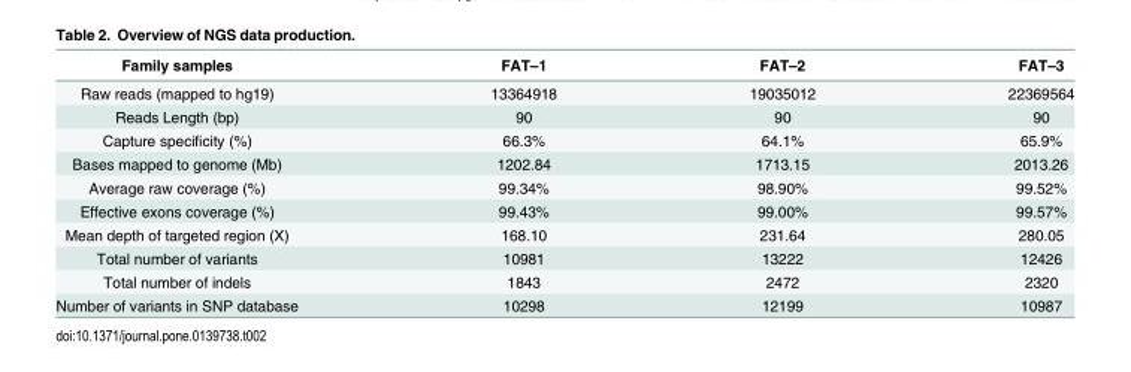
<table><thead><tr><td>Family samples</td><td>FAT–1</td><td>FAT–2</td><td>FAT–3</td></tr></thead><tbody><tr><td>Raw reads (mapped to hg19)</td><td>13364918</td><td>19035012</td><td>22369564</td></tr><tr><td>Reads Length (bp)</td><td>90</td><td>90</td><td>90</td></tr><tr><td>Capture specificity (%)</td><td>66.3%</td><td>64.1%</td><td>65.9%</td></tr><tr><td>Bases mapped to genome (Mb)</td><td>1202.84</td><td>1713.15</td><td>2013.26</td></tr><tr><td>Average raw coverage (%)</td><td>99.34%</td><td>98.90%</td><td>99.52%</td></tr><tr><td>Effective exons coverage (%)</td><td>99.43%</td><td>99.00%</td><td>99.57%</td></tr><tr><td>Mean depth of targeted region (X)</td><td>168.10</td><td>231.64</td><td>280.05</td></tr><tr><td>Total number of variants</td><td>10981</td><td>13222</td><td>12426</td></tr><tr><td>Total number of indels</td><td>1843</td><td>2472</td><td>2320</td></tr><tr><td>Number of variants in SNP database</td><td>10298</td><td>12199</td><td>10987</td></tr></tbody></table>